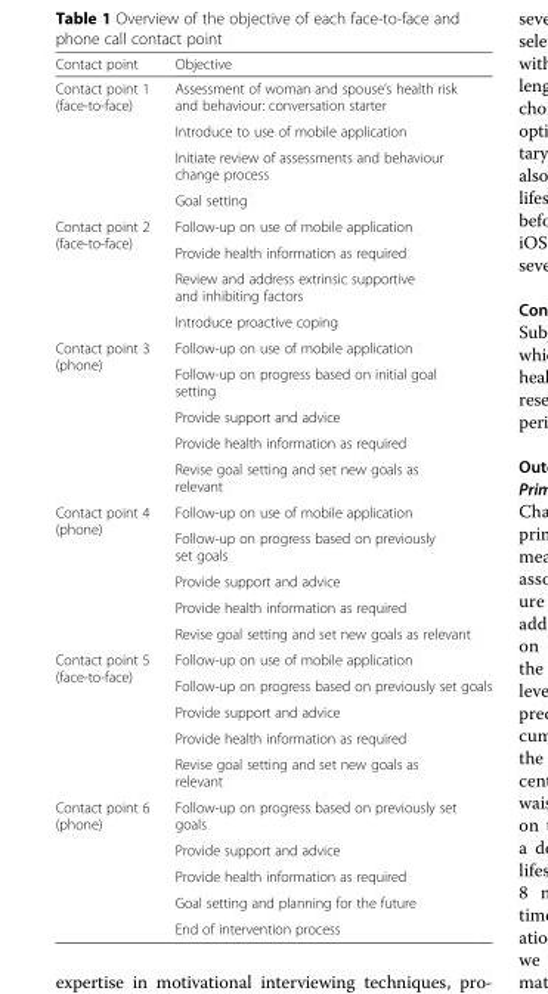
<table><thead><tr><td>Contact point</td><td>Objective</td></tr></thead><tbody><tr><td rowspan="4">Contact point 1 (face-to-face)</td><td>Assessment of woman and spouse’s health risk and behaviour: conversation starter</td></tr><tr><td>Introduce to use of mobile application</td></tr><tr><td>Initiate review of assessments and behaviour change process</td></tr><tr><td>Goal setting</td></tr><tr><td rowspan="4">Contact point 2 (face-to-face)</td><td>Follow-up on use of mobile application</td></tr><tr><td>Provide health information as required</td></tr><tr><td>Review and address extrinsic supportive and inhibiting factors</td></tr><tr><td>Introduce proactive coping</td></tr><tr><td rowspan="5">Contact point 3 (phone)</td><td>Follow-up on use of mobile application</td></tr><tr><td>Follow-up on progress based on initial goal setting</td></tr><tr><td>Provide support and advice</td></tr><tr><td>Provide health information as required</td></tr><tr><td>Revise goal setting and set new goals as relevant</td></tr><tr><td rowspan="5">Contact point 4 (phone)</td><td>Follow-up on use of mobile application</td></tr><tr><td>Follow-up on progress based on previously set goals</td></tr><tr><td>Provide support and advice</td></tr><tr><td>Provide health information as required</td></tr><tr><td>Revise goal setting and set new goals as relevant</td></tr><tr><td rowspan="5">Contact point 5 (face-to-face)</td><td>Follow-up on use of mobile application</td></tr><tr><td>Follow-up on progress based on previously set goals</td></tr><tr><td>Provide support and advice</td></tr><tr><td>Provide health information as required</td></tr><tr><td>Revise goal setting and set new goals as relevant</td></tr><tr><td rowspan="5">Contact point 6 (phone)</td><td>Follow-up on progress based on previously set goals</td></tr><tr><td>Provide support and advice</td></tr><tr><td>Provide health information as required</td></tr><tr><td>Goal setting and planning for the future</td></tr><tr><td>End of intervention process</td></tr></tbody></table>